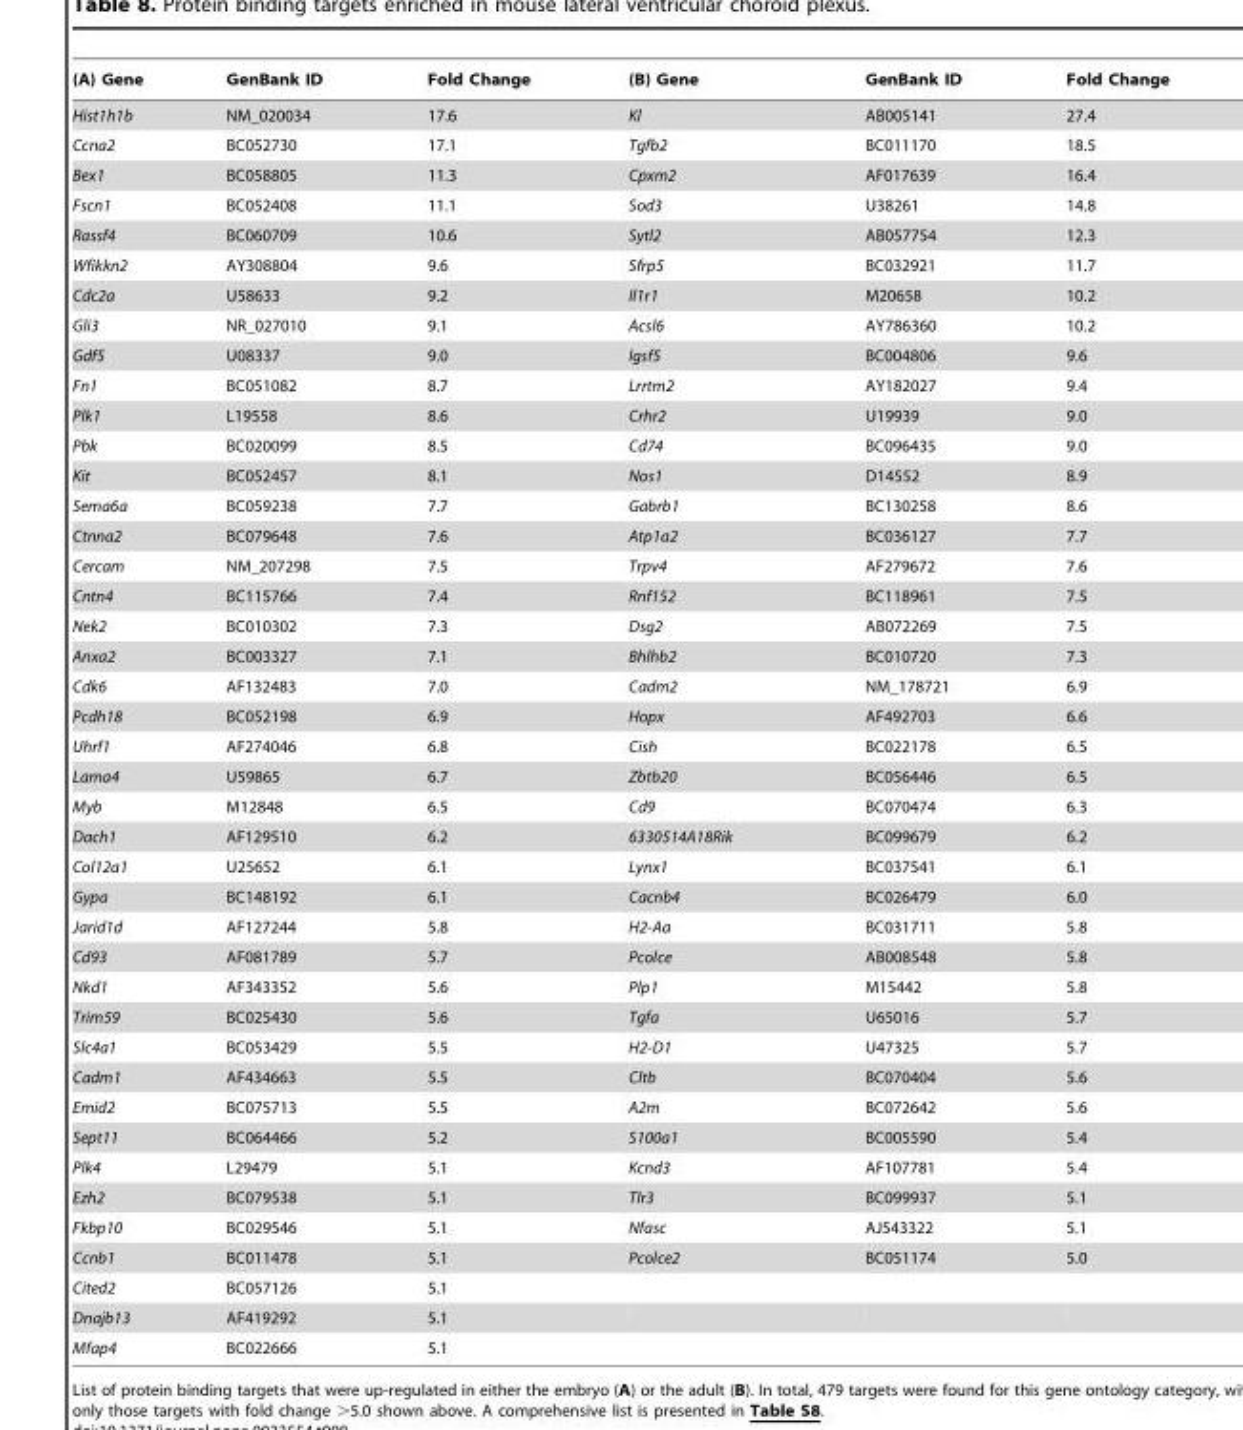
<table><thead><tr><td>(A) Gene</td><td>GenBank ID</td><td>Fold Change</td><td>(B) Gene</td><td>GenBank ID</td><td>Fold Change</td></tr></thead><tbody><tr><td>Hist1h1b</td><td>NM_020034</td><td>17.6</td><td>Kl</td><td>AB005141</td><td>27.4</td></tr><tr><td>Ccna2</td><td>BC052730</td><td>17.1</td><td>Tgfb2</td><td>BC011170</td><td>18.5</td></tr><tr><td>Bex1</td><td>BC058805</td><td>11.3</td><td>Cpxm2</td><td>AF017639</td><td>16.4</td></tr><tr><td>Fscn1</td><td>BC052408</td><td>11.1</td><td>Sod3</td><td>U38261</td><td>14.8</td></tr><tr><td>Rassf4</td><td>BC060709</td><td>10.6</td><td>Sytl2</td><td>AB057754</td><td>12.3</td></tr><tr><td>Wfikkn2</td><td>AY308804</td><td>9.6</td><td>Sfrp5</td><td>BC032921</td><td>11.7</td></tr><tr><td>Cdc2a</td><td>U58633</td><td>9.2</td><td>Il1r1</td><td>M20658</td><td>10.2</td></tr><tr><td>Gli3</td><td>NR_027010</td><td>9.1</td><td>Acsl6</td><td>AY786360</td><td>10.2</td></tr><tr><td>Gdf5</td><td>U08337</td><td>9.0</td><td>Igsf5</td><td>BC004806</td><td>9.6</td></tr><tr><td>Fn1</td><td>BC051082</td><td>8.7</td><td>Lrrtm2</td><td>AY182027</td><td>9.4</td></tr><tr><td>Plk1</td><td>L19558</td><td>8.6</td><td>Crhr2</td><td>U19939</td><td>9.0</td></tr><tr><td>Pbk</td><td>BC020099</td><td>8.5</td><td>Cd74</td><td>BC096435</td><td>9.0</td></tr><tr><td>Kit</td><td>BC052457</td><td>8.1</td><td>Nos1</td><td>D14552</td><td>8.9</td></tr><tr><td>Sema6a</td><td>BC059238</td><td>7.7</td><td>Gabrb1</td><td>BC130258</td><td>8.6</td></tr><tr><td>Ctnna2</td><td>BC079648</td><td>7.6</td><td>Atp1a2</td><td>BC036127</td><td>7.7</td></tr><tr><td>Cercam</td><td>NM_207298</td><td>7.5</td><td>Trpv4</td><td>AF279672</td><td>7.6</td></tr><tr><td>Cntn4</td><td>BC115766</td><td>7.4</td><td>Rnf152</td><td>BC118961</td><td>7.5</td></tr><tr><td>Nek2</td><td>BC010302</td><td>7.3</td><td>Dsg2</td><td>AB072269</td><td>7.5</td></tr><tr><td>Anxa2</td><td>BC003327</td><td>7.1</td><td>Bhlhb2</td><td>BC010720</td><td>7.3</td></tr><tr><td>Cdk6</td><td>AF132483</td><td>7.0</td><td>Cadm2</td><td>NM_178721</td><td>6.9</td></tr><tr><td>Pcdh18</td><td>BC052198</td><td>6.9</td><td>Hopx</td><td>AF492703</td><td>6.6</td></tr><tr><td>Uhrf1</td><td>AF274046</td><td>6.8</td><td>Cish</td><td>BC022178</td><td>6.5</td></tr><tr><td>Lama4</td><td>U59865</td><td>6.7</td><td>Zbtb20</td><td>BC056446</td><td>6.5</td></tr><tr><td>Myb</td><td>M12848</td><td>6.5</td><td>Cd9</td><td>BC070474</td><td>6.3</td></tr><tr><td>Dach1</td><td>AF129510</td><td>6.2</td><td>6330514A18Rik</td><td>BC099679</td><td>6.2</td></tr><tr><td>Col12a1</td><td>U25652</td><td>6.1</td><td>Lynx1</td><td>BC037541</td><td>6.1</td></tr><tr><td>Gypa</td><td>BC148192</td><td>6.1</td><td>Cacnb4</td><td>BC026479</td><td>6.0</td></tr><tr><td>Jarid1d</td><td>AF127244</td><td>5.8</td><td>H2-Aa</td><td>BC031711</td><td>5.8</td></tr><tr><td>Cd93</td><td>AF081789</td><td>5.7</td><td>Pcolce</td><td>AB008548</td><td>5.8</td></tr><tr><td>Nkd1</td><td>AF343352</td><td>5.6</td><td>Plp1</td><td>M15442</td><td>5.8</td></tr><tr><td>Trim59</td><td>BC025430</td><td>5.6</td><td>Tgfa</td><td>U65016</td><td>5.7</td></tr><tr><td>Slc4a1</td><td>BC053429</td><td>5.5</td><td>H2-D1</td><td>U47325</td><td>5.7</td></tr><tr><td>Cadm1</td><td>AF434663</td><td>5.5</td><td>Cltb</td><td>BC070404</td><td>5.6</td></tr><tr><td>Emid2</td><td>BC075713</td><td>5.5</td><td>A2m</td><td>BC072642</td><td>5.6</td></tr><tr><td>Sept11</td><td>BC064466</td><td>5.2</td><td>S100a1</td><td>BC005590</td><td>5.4</td></tr><tr><td>Plk4</td><td>L29479</td><td>5.1</td><td>Kcnd3</td><td>AF107781</td><td>5.4</td></tr><tr><td>Ezh2</td><td>BC079538</td><td>5.1</td><td>Tlr3</td><td>BC099937</td><td>5.1</td></tr><tr><td>Fkbp10</td><td>BC029546</td><td>5.1</td><td>Nfasc</td><td>AJ543322</td><td>5.1</td></tr><tr><td>Ccnb1</td><td>BC011478</td><td>5.1</td><td>Pcolce2</td><td>BC051174</td><td>5.0</td></tr><tr><td>Cited2</td><td>BC057126</td><td>5.1</td><td></td><td></td><td></td></tr><tr><td>Dnajb13</td><td>AF419292</td><td>5.1</td><td></td><td></td><td></td></tr><tr><td>Mfap4</td><td>BC022666</td><td>5.1</td><td></td><td></td><td></td></tr></tbody></table>